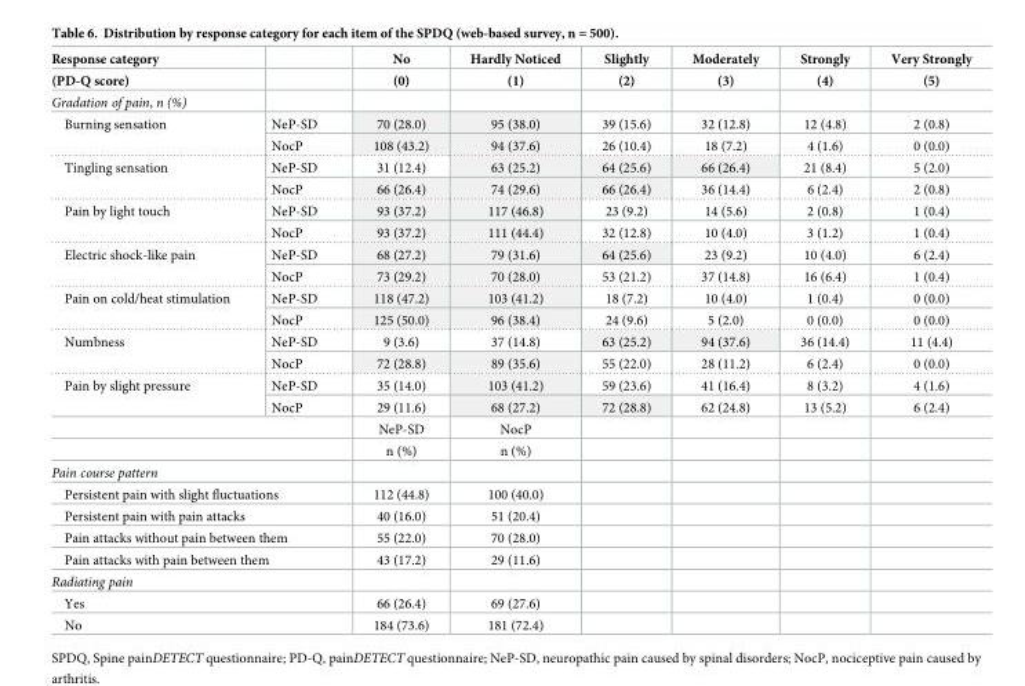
<table><thead><tr><td rowspan="2">Response category (PD-Q score)</td><td rowspan="2"></td><td rowspan="2">No (0)</td><td rowspan="2">Hardly Noticed (1)</td><td rowspan="2">Slightly (2)</td><td rowspan="2">Moderately (3)</td><td rowspan="2">Strongly (4)</td><td rowspan="2">Very Strongly (5)</td></tr><tr></tr></thead><tbody><tr><td colspan="8">Gradation of pain, n (%)</td></tr><tr><td rowspan="2">Burning sensation</td><td>NeP-SD</td><td>70 (28.0)</td><td>95 (38.0)</td><td>39 (15.6)</td><td>32 (12.8)</td><td>12 (4.8)</td><td>2 (0.8)</td></tr><tr><td>NocP</td><td>108 (43.2)</td><td>94 (37.6)</td><td>26 (10.4)</td><td>18 (7.2)</td><td>4 (1.6)</td><td>0 (0.0)</td></tr><tr><td rowspan="2">Tingling sensation</td><td>NeP-SD</td><td>31 (12.4)</td><td>63 (25.2)</td><td>64 (25.6)</td><td>66 (26.4)</td><td>21 (8.4)</td><td>5 (2.0)</td></tr><tr><td>NocP</td><td>66 (26.4)</td><td>74 (29.6)</td><td>66 (26.4)</td><td>36 (14.4)</td><td>6 (2.4)</td><td>2 (0.8)</td></tr><tr><td rowspan="2">Pain by light touch</td><td>NeP-SD</td><td>93 (37.2)</td><td>117 (46.8)</td><td>23 (9.2)</td><td>14 (5.6)</td><td>2 (0.8)</td><td>1 (0.4)</td></tr><tr><td>NocP</td><td>93 (37.2)</td><td>111 (44.4)</td><td>32 (12.8)</td><td>10 (4.0)</td><td>3 (1.2)</td><td>1 (0.4)</td></tr><tr><td rowspan="2">Electric shock-like pain</td><td>NeP-SD</td><td>68 (27.2)</td><td>79 (31.6)</td><td>64 (25.6)</td><td>23 (9.2)</td><td>10 (4.0)</td><td>6 (2.4)</td></tr><tr><td>NocP</td><td>73 (29.2)</td><td>70 (28.0)</td><td>53 (21.2)</td><td>37 (14.8)</td><td>16 (6.4)</td><td>1 (0.4)</td></tr><tr><td rowspan="2">Pain on cold/heat stimulation</td><td>NeP-SD</td><td>118 (47.2)</td><td>103 (41.2)</td><td>18 (7.2)</td><td>10 (4.0)</td><td>1 (0.4)</td><td>0 (0.0)</td></tr><tr><td>NocP</td><td>125 (50.0)</td><td>96 (38.4)</td><td>24 (9.6)</td><td>5 (2.0)</td><td>0 (0.0)</td><td>0 (0.0)</td></tr><tr><td rowspan="2">Numbness</td><td>NeP-SD</td><td>9 (3.6)</td><td>37 (14.8)</td><td>63 (25.2)</td><td>94 (37.6)</td><td>36 (14.4)</td><td>11 (4.4)</td></tr><tr><td>NocP</td><td>72 (28.8)</td><td>89 (35.6)</td><td>55 (22.0)</td><td>28 (11.2)</td><td>6 (2.4)</td><td>0 (0.0)</td></tr><tr><td rowspan="2">Pain by slight pressure</td><td>NeP-SD</td><td>35 (14.0)</td><td>103 (41.2)</td><td>59 (23.6)</td><td>41 (16.4)</td><td>8 (3.2)</td><td>4 (1.6)</td></tr><tr><td>NocP</td><td>29 (11.6)</td><td>68 (27.2)</td><td>72 (28.8)</td><td>62 (24.8)</td><td>13 (5.2)</td><td>6 (2.4)</td></tr><tr><td colspan="2"></td><td>NeP-SD</td><td>NocP</td><td></td><td></td><td></td><td></td></tr><tr><td colspan="2"></td><td>n (%)</td><td>n (%)</td><td></td><td></td><td></td><td></td></tr><tr><td colspan="8">Pain course pattern</td></tr><tr><td colspan="2">Persistent pain with slight fluctuations</td><td>112 (44.8)</td><td>100 (40.0)</td><td></td><td></td><td></td><td></td></tr><tr><td colspan="2">Persistent pain with pain attacks</td><td>40 (16.0)</td><td>51 (20.4)</td><td></td><td></td><td></td><td></td></tr><tr><td colspan="2">Pain attacks without pain between them</td><td>55 (22.0)</td><td>70 (28.0)</td><td></td><td></td><td></td><td></td></tr><tr><td colspan="2">Pain attacks with pain between them</td><td>43 (17.2)</td><td>29 (11.6)</td><td></td><td></td><td></td><td></td></tr><tr><td colspan="8">Radiating pain</td></tr><tr><td colspan="2">Yes</td><td>66 (26.4)</td><td>69 (27.6)</td><td></td><td></td><td></td><td></td></tr><tr><td colspan="2">No</td><td>184 (73.6)</td><td>181 (72.4)</td><td></td><td></td><td></td><td></td></tr></tbody></table>